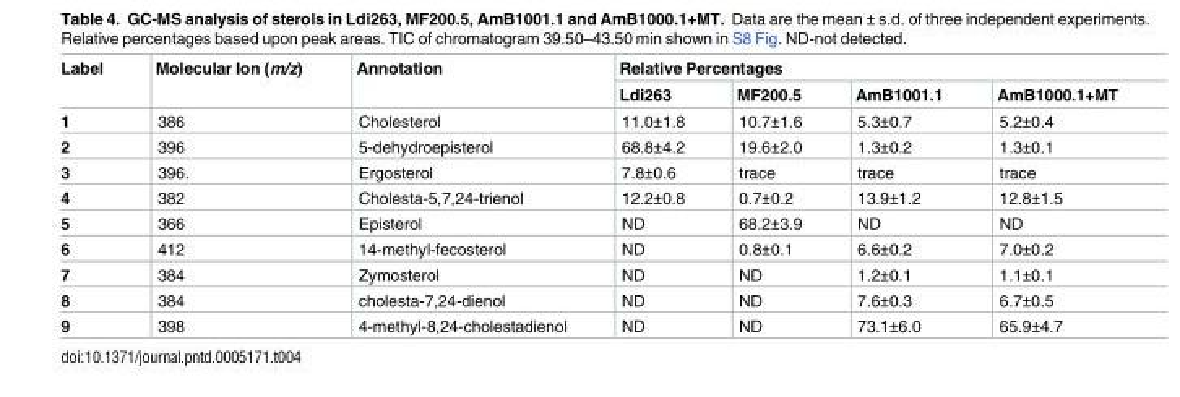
<table><thead><tr><td rowspan="2">Label</td><td rowspan="2">Molecular Ion (m/z)</td><td rowspan="2">Annotation</td><td colspan="4">Relative Percentages</td></tr><tr><td>Ldi263</td><td>MF200.5</td><td>AmB1001.1</td><td>AmB1000.1+MT</td></tr></thead><tbody><tr><td>1</td><td>386</td><td>Cholesterol</td><td>11.0±1.8</td><td>10.7±1.6</td><td>5.3±0.7</td><td>5.2±0.4</td></tr><tr><td>2</td><td>396</td><td>5-dehydroepisterol</td><td>68.8±4.2</td><td>19.6±2.0</td><td>1.3±0.2</td><td>1.3±0.1</td></tr><tr><td>3</td><td>396.</td><td>Ergosterol</td><td>7.8±0.6</td><td>trace</td><td>trace</td><td>trace</td></tr><tr><td>4</td><td>382</td><td>Cholesta-5,7,24-trienol</td><td>12.2±0.8</td><td>0.7±0.2</td><td>13.9±1.2</td><td>12.8±1.5</td></tr><tr><td>5</td><td>366</td><td>Episterol</td><td>ND</td><td>68.2±3.9</td><td>ND</td><td>ND</td></tr><tr><td>6</td><td>412</td><td>14-methyl-fecosterol</td><td>ND</td><td>0.8±0.1</td><td>6.6±0.2</td><td>7.0±0.2</td></tr><tr><td>7</td><td>384</td><td>Zymosterol</td><td>ND</td><td>ND</td><td>1.2±0.1</td><td>1.1±0.1</td></tr><tr><td>8</td><td>384</td><td>cholesta-7,24-dienol</td><td>ND</td><td>ND</td><td>7.6±0.3</td><td>6.7±0.5</td></tr><tr><td>9</td><td>398</td><td>4-methyl-8,24-cholestadienol</td><td>ND</td><td>ND</td><td>73.1±6.0</td><td>65.9±4.7</td></tr></tbody></table>